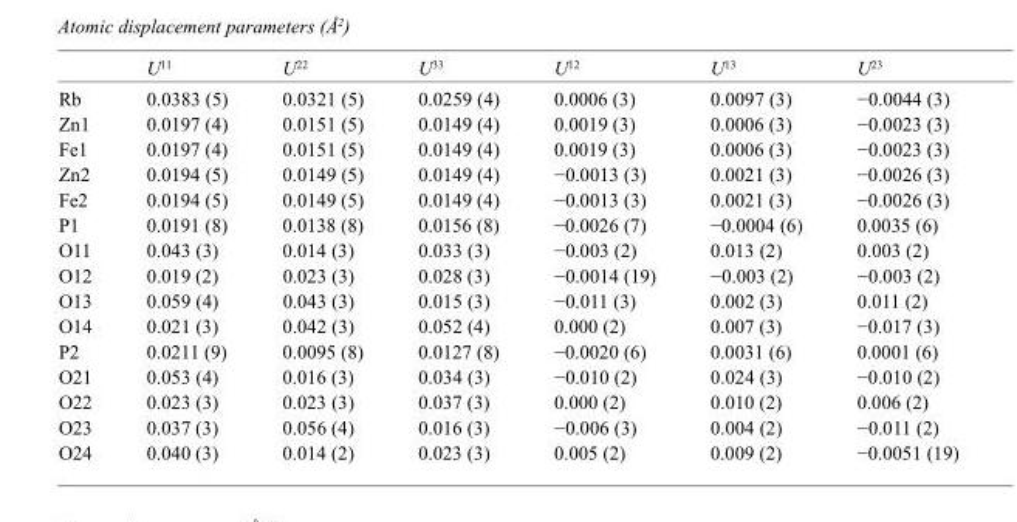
<table><thead><tr><td></td><td>U<sup>11</sup></td><td>U<sup>22</sup></td><td>U<sup>33</sup></td><td>U<sup>12</sup></td><td>U<sup>13</sup></td><td>U<sup>23</sup></td></tr></thead><tbody><tr><td>Rb</td><td>0.0383 (5)</td><td>0.0321 (5)</td><td>0.0259 (4)</td><td>0.0006 (3)</td><td>0.0097 (3)</td><td>−0.0044 (3)</td></tr><tr><td>Zn1</td><td>0.0197 (4)</td><td>0.0151 (5)</td><td>0.0149 (4)</td><td>0.0019 (3)</td><td>0.0006 (3)</td><td>−0.0023 (3)</td></tr><tr><td>Fe1</td><td>0.0197 (4)</td><td>0.0151 (5)</td><td>0.0149 (4)</td><td>0.0019 (3)</td><td>0.0006 (3)</td><td>−0.0023 (3)</td></tr><tr><td>Zn2</td><td>0.0194 (5)</td><td>0.0149 (5)</td><td>0.0149 (4)</td><td>−0.0013 (3)</td><td>0.0021 (3)</td><td>−0.0026 (3)</td></tr><tr><td>Fe2</td><td>0.0194 (5)</td><td>0.0149 (5)</td><td>0.0149 (4)</td><td>−0.0013 (3)</td><td>0.0021 (3)</td><td>−0.0026 (3)</td></tr><tr><td>P1</td><td>0.0191 (8)</td><td>0.0138 (8)</td><td>0.0156 (8)</td><td>−0.0026 (7)</td><td>−0.0004 (6)</td><td>0.0035 (6)</td></tr><tr><td>O11</td><td>0.043 (3)</td><td>0.014 (3)</td><td>0.033 (3)</td><td>−0.003 (2)</td><td>0.013 (2)</td><td>0.003 (2)</td></tr><tr><td>O12</td><td>0.019 (2)</td><td>0.023 (3)</td><td>0.028 (3)</td><td>−0.0014 (19)</td><td>−0.003 (2)</td><td>−0.003 (2)</td></tr><tr><td>O13</td><td>0.059 (4)</td><td>0.043 (3)</td><td>0.015 (3)</td><td>−0.011 (3)</td><td>0.002 (3)</td><td>0.011 (2)</td></tr><tr><td>O14</td><td>0.021 (3)</td><td>0.042 (3)</td><td>0.052 (4)</td><td>0.000 (2)</td><td>0.007 (3)</td><td>−0.017 (3)</td></tr><tr><td>P2</td><td>0.0211 (9)</td><td>0.0095 (8)</td><td>0.0127 (8)</td><td>−0.0020 (6)</td><td>0.0031 (6)</td><td>0.0001 (6)</td></tr><tr><td>O21</td><td>0.053 (4)</td><td>0.016 (3)</td><td>0.034 (3)</td><td>−0.010 (2)</td><td>0.024 (3)</td><td>−0.010 (2)</td></tr><tr><td>O22</td><td>0.023 (3)</td><td>0.023 (3)</td><td>0.037 (3)</td><td>0.000 (2)</td><td>0.010 (2)</td><td>0.006 (2)</td></tr><tr><td>O23</td><td>0.037 (3)</td><td>0.056 (4)</td><td>0.016 (3)</td><td>−0.006 (3)</td><td>0.004 (2)</td><td>−0.011 (2)</td></tr><tr><td>O24</td><td>0.040 (3)</td><td>0.014 (2)</td><td>0.023 (3)</td><td>0.005 (2)</td><td>0.009 (2)</td><td>−0.0051 (19)</td></tr></tbody></table>